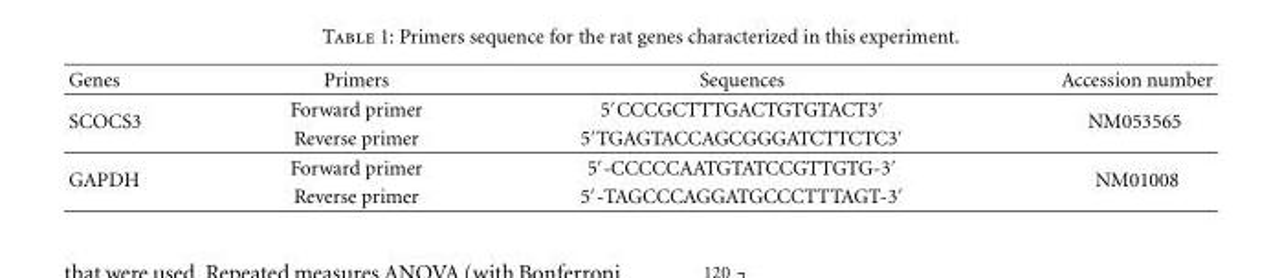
<table><thead><tr><td>Genes</td><td>Primers</td><td>Sequences</td><td>Accession number</td></tr></thead><tbody><tr><td rowspan="2">SCOCS3</td><td>Forward primer</td><td>5′CCCGCTTTGACTGTGTACT3′</td><td rowspan="2">NM053565</td></tr><tr><td>Reverse primer</td><td>5′TGAGTACCAGCGGGATCTTCTC3′</td></tr><tr><td rowspan="2">GAPDH</td><td>Forward primer</td><td>5′-CCCCCAATGTATCCGTTGTG-3′</td><td rowspan="2">NM01008</td></tr><tr><td>Reverse primer</td><td>5′-TAGCCCAGGATGCCCTTTAGT-3′</td></tr></tbody></table>